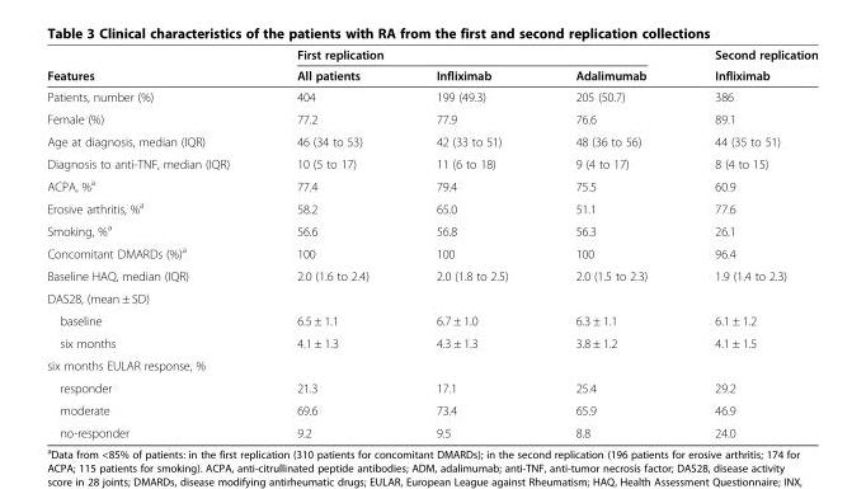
<table><thead><tr><td rowspan="2">Features</td><td colspan="3">First replication</td><td rowspan="2">Second replication Infliximab</td></tr><tr><td>All patients</td><td>Infliximab</td><td>Adalimumab</td></tr></thead><tbody><tr><td>Patients, number (%)</td><td>404</td><td>199 (49.3)</td><td>205 (50.7)</td><td>386</td></tr><tr><td>Female (%)</td><td>77.2</td><td>77.9</td><td>76.6</td><td>89.1</td></tr><tr><td>Age at diagnosis, median (IQR)</td><td>46 (34 to 53)</td><td>42 (33 to 51)</td><td>48 (36 to 56)</td><td>44 (35 to 51)</td></tr><tr><td>Diagnosis to anti-TNF, median (IQR)</td><td>10 (5 to 17)</td><td>11 (6 to 18)</td><td>9 (4 to 17)</td><td>8 (4 to 15)</td></tr><tr><td>ACPA, %<sup>a</sup></td><td>77.4</td><td>79.4</td><td>75.5</td><td>60.9</td></tr><tr><td>Erosive arthritis, %<sup>a</sup></td><td>58.2</td><td>65.0</td><td>51.1</td><td>77.6</td></tr><tr><td>Smoking, %<sup>a</sup></td><td>56.6</td><td>56.8</td><td>56.3</td><td>26.1</td></tr><tr><td>Concomitant DMARDs (%)<sup>a</sup></td><td>100</td><td>100</td><td>100</td><td>96.4</td></tr><tr><td>Baseline HAQ, median (IQR)</td><td>2.0 (1.6 to 2.4)</td><td>2.0 (1.8 to 2.5)</td><td>2.0 (1.5 to 2.3)</td><td>1.9 (1.4 to 2.3)</td></tr><tr><td colspan="5">DAS28, (mean ± SD)</td></tr><tr><td>baseline</td><td>6.5 ± 1.1</td><td>6.7 ± 1.0</td><td>6.3 ± 1.1</td><td>6.1 ± 1.2</td></tr><tr><td>six months</td><td>4.1 ± 1.3</td><td>4.3 ± 1.3</td><td>3.8 ± 1.2</td><td>4.1 ± 1.5</td></tr><tr><td colspan="5">six months EULAR response, %</td></tr><tr><td>responder</td><td>21.3</td><td>17.1</td><td>25.4</td><td>29.2</td></tr><tr><td>moderate</td><td>69.6</td><td>73.4</td><td>65.9</td><td>46.9</td></tr><tr><td>no-responder</td><td>9.2</td><td>9.5</td><td>8.8</td><td>24.0</td></tr></tbody></table>